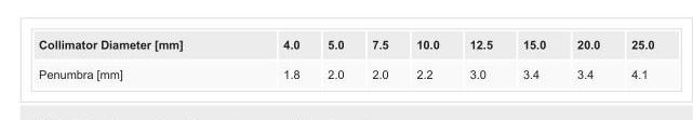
<table><tbody><tr><td>Collimator Diameter [mm]</td><td>4.0</td><td>5.0</td><td>7.5</td><td>10.0</td><td>12.5</td><td>15.0</td><td>20.0</td><td>25.0</td></tr><tr><td>Penumbra [mm]</td><td>1.8</td><td>2.0</td><td>2.0</td><td>2.2</td><td>3.0</td><td>3.4</td><td>3.4</td><td>4.1</td></tr></tbody></table>